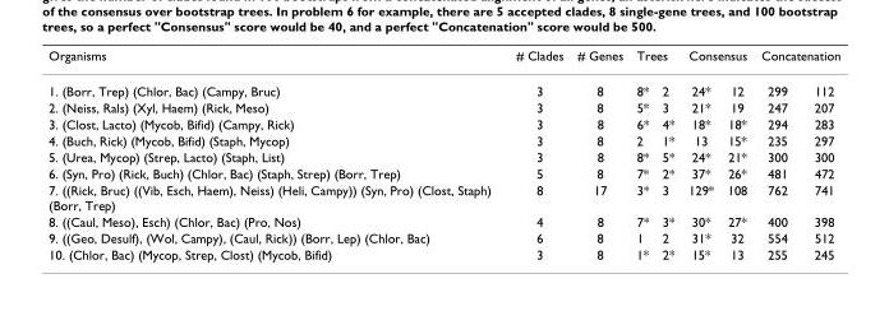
<table><thead><tr><td rowspan="2">Organisms 1. (Borr, Trep) (Chlor, Bac) (Campy, Bruc)</td><td rowspan="2"># Clades 3</td><td rowspan="2"># Genes 8</td><td colspan="2">Trees</td><td colspan="2">Consensus</td><td colspan="2">Concatenation</td></tr><tr><td>8*</td><td>2</td><td>24*</td><td>12</td><td>299</td><td>112</td></tr></thead><tbody><tr><td>2. (Neiss, Rals) (Xyl, Haem) (Rick, Meso)</td><td>3</td><td>8</td><td>5*</td><td>3</td><td>21*</td><td>19</td><td>247</td><td>207</td></tr><tr><td>3. (Clost, Lacto) (Mycob, Bifid) (Campy, Rick)</td><td>3</td><td>8</td><td>6*</td><td>4*</td><td>18*</td><td>18*</td><td>294</td><td>283</td></tr><tr><td>4. (Buch, Rick) (Mycob, Bifid) (Staph, Mycop)</td><td>3</td><td>8</td><td>2</td><td>1*</td><td>13</td><td>15*</td><td>235</td><td>297</td></tr><tr><td>5. (Urea, Mycop) (Strep, Lacto) (Staph, List)</td><td>3</td><td>8</td><td>8*</td><td>5*</td><td>24*</td><td>21*</td><td>300</td><td>300</td></tr><tr><td>6. (Syn, Pro) (Rick, Buch) (Chlor, Bac) (Staph, Strep) (Borr, Trep)</td><td>5</td><td>8</td><td>7*</td><td>2*</td><td>37*</td><td>26*</td><td>481</td><td>472</td></tr><tr><td>7. ((Rick, Bruc) ((Vib, Esch, Haem), Neiss) (Heli, Campy)) (Syn, Pro) (Clost, Staph) (Borr, Trep)</td><td>8</td><td>17</td><td>3*</td><td>3</td><td>129*</td><td>108</td><td>762</td><td>741</td></tr><tr><td>8. ((Caul, Meso), Esch) (Chlor, Bac) (Pro, Nos)</td><td>4</td><td>8</td><td>7*</td><td>3*</td><td>30*</td><td>27*</td><td>400</td><td>398</td></tr><tr><td>9. ((Geo, Desulf), (Wol, Campy), (Caul, Rick)) (Borr, Lep) (Chlor, Bac)</td><td>6</td><td>8</td><td>1</td><td>2</td><td>31*</td><td>32</td><td>554</td><td>512</td></tr><tr><td>10. (Chlor, Bac) (Mycop, Strep, Clost) (Mycob, Bifid)</td><td>3</td><td>8</td><td>1*</td><td>2*</td><td>15*</td><td>13</td><td>255</td><td>245</td></tr></tbody></table>